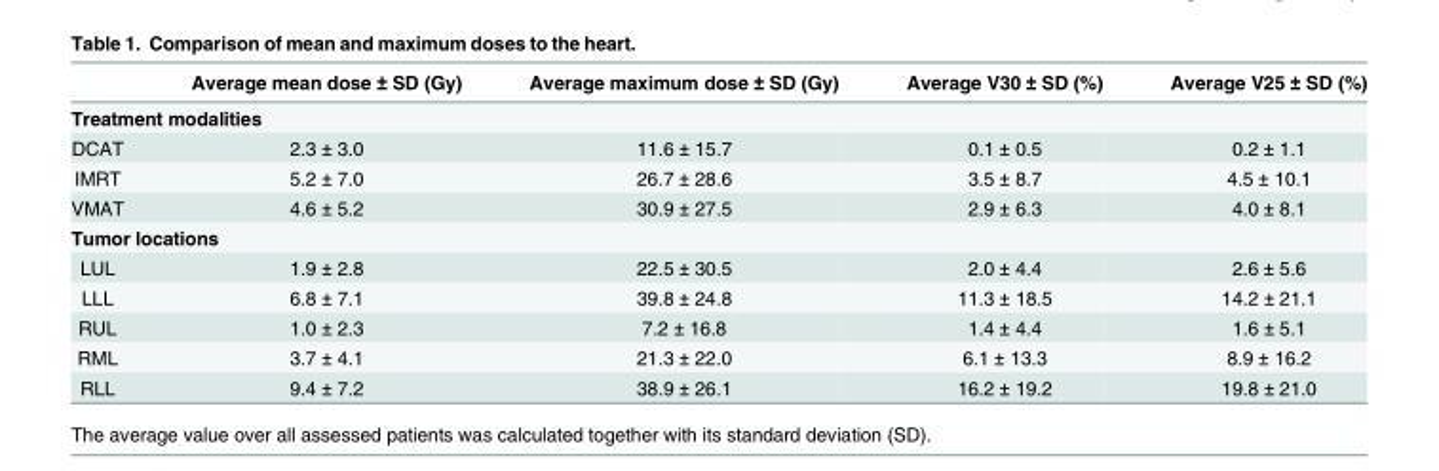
<table><thead><tr><td></td><td>Average mean dose ± SD (Gy)</td><td>Average maximum dose ± SD (Gy)</td><td>Average V30 ± SD (%)</td><td>Average V25 ± SD (%)</td></tr></thead><tbody><tr><td colspan="5">Treatment modalities</td></tr><tr><td>DCAT</td><td>2.3 ± 3.0</td><td>11.6 ± 15.7</td><td>0.1 ± 0.5</td><td>0.2 ± 1.1</td></tr><tr><td>IMRT</td><td>5.2 ± 7.0</td><td>26.7 ± 28.6</td><td>3.5 ± 8.7</td><td>4.5 ± 10.1</td></tr><tr><td>VMAT</td><td>4.6 ± 5.2</td><td>30.9 ± 27.5</td><td>2.9 ± 6.3</td><td>4.0 ± 8.1</td></tr><tr><td colspan="5">Tumor locations</td></tr><tr><td>LUL</td><td>1.9 ± 2.8</td><td>22.5 ± 30.5</td><td>2.0 ± 4.4</td><td>2.6 ± 5.6</td></tr><tr><td>LLL</td><td>6.8 ± 7.1</td><td>39.8 ± 24.8</td><td>11.3 ± 18.5</td><td>14.2 ± 21.1</td></tr><tr><td>RUL</td><td>1.0 ± 2.3</td><td>7.2 ± 16.8</td><td>1.4 ± 4.4</td><td>1.6 ± 5.1</td></tr><tr><td>RML</td><td>3.7 ± 4.1</td><td>21.3 ± 22.0</td><td>6.1 ± 13.3</td><td>8.9 ± 16.2</td></tr><tr><td>RLL</td><td>9.4 ± 7.2</td><td>38.9 ± 26.1</td><td>16.2 ± 19.2</td><td>19.8 ± 21.0</td></tr></tbody></table>